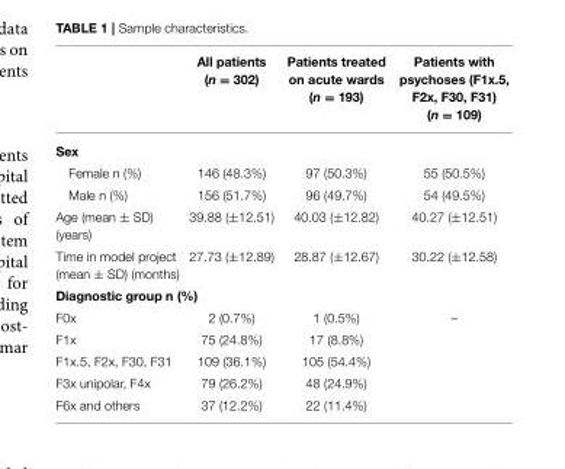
<table><thead><tr><td></td><td>All patients (n = 302)</td><td>Patients treated on acute wards (n = 193)</td><td>Patients with psychoses (F1x.5, F2x, F30, F31) (n = 109)</td></tr></thead><tbody><tr><td colspan="4">Sex</td></tr><tr><td>Female n (%)</td><td>146 (48.3%)</td><td>97 (50.3%)</td><td>55 (50.5%)</td></tr><tr><td>Male n (%)</td><td>156 (51.7%)</td><td>96 (49.7%)</td><td>54 (49.5%)</td></tr><tr><td>Age (mean ± SD) (years)</td><td>39.88 (±12.51)</td><td>40.03 (±12.82)</td><td>40.27 (±12.51)</td></tr><tr><td>Time in model project (mean ± SD) (months)</td><td>27.73 (±12.89)</td><td>28.87 (±12.67)</td><td>30.22 (±12.58)</td></tr><tr><td colspan="4">Diagnostic group n (%)</td></tr><tr><td>F0x</td><td>2 (0.7%)</td><td>1 (0.5%)</td><td>–</td></tr><tr><td>F1x</td><td>75 (24.8%)</td><td>17 (8.8%)</td><td></td></tr><tr><td>F1x.5, F2x, F30, F31</td><td>109 (36.1%)</td><td>105 (54.4%)</td><td></td></tr><tr><td>F3x unipolar, F4x</td><td>79 (26.2%)</td><td>48 (24.9%)</td><td></td></tr><tr><td>F6x and others</td><td>37 (12.2%)</td><td>22 (11.4%)</td><td></td></tr></tbody></table>